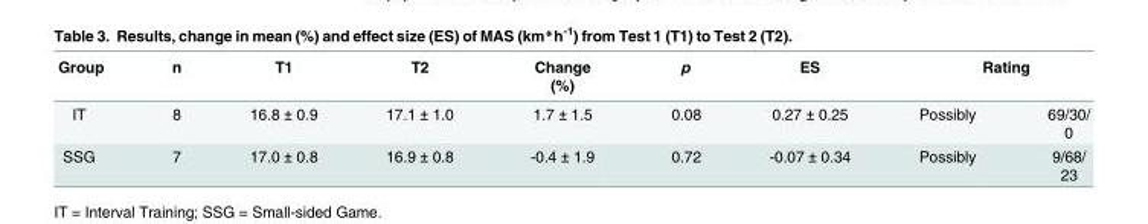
<table><thead><tr><td rowspan="2">Group IT</td><td rowspan="2">n 8</td><td rowspan="2">T1 16.8 ± 0.9</td><td rowspan="2">T2 17.1 ± 1.0</td><td rowspan="2">Change (%) 1.7 ± 1.5</td><td rowspan="2">p 0.08</td><td rowspan="2">ES 0.27 ± 0.25</td><td colspan="2">Rating</td></tr><tr><td>Possibly</td><td>69/30/ 0</td></tr></thead><tbody><tr><td>SSG</td><td>7</td><td>17.0 ± 0.8</td><td>16.9 ± 0.8</td><td>-0.4 ± 1.9</td><td>0.72</td><td>-0.07 ± 0.34</td><td>Possibly</td><td>9/68/</td></tr></tbody></table>